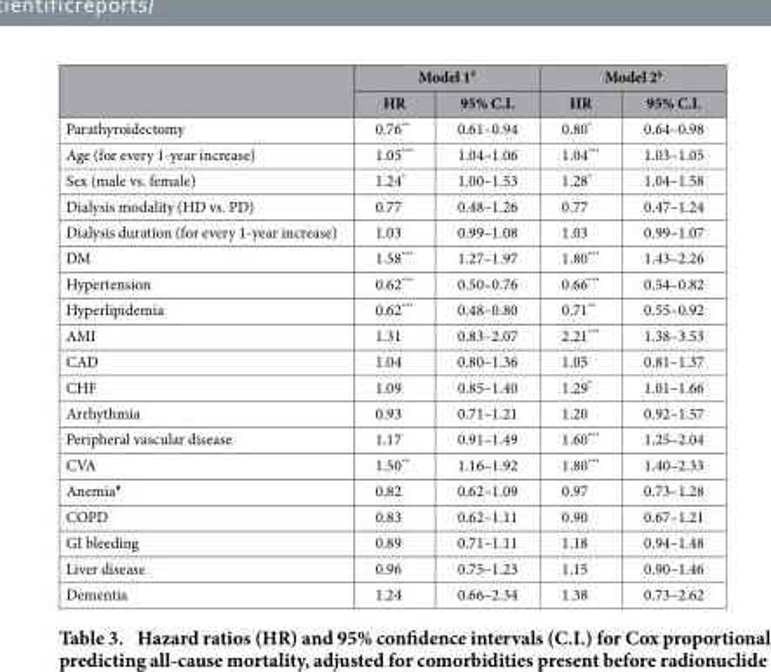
<table><thead><tr><td rowspan="2"></td><td colspan="2">Model 1#</td><td colspan="2">Model 2§</td></tr><tr><td>HR</td><td>95% C.I.</td><td>HR</td><td>95% C.I.</td></tr></thead><tbody><tr><td>Parathyroidectomy</td><td>0.76**</td><td>0.61–0.94</td><td>0.80*</td><td>0.64–0.98</td></tr><tr><td>Age (for every 1-year increase)</td><td>1.05***</td><td>1.04–1.06</td><td>1.04***</td><td>1.03–1.05</td></tr><tr><td>Sex (male vs. female)</td><td>1.24*</td><td>1.00–1.53</td><td>1.28*</td><td>1.04–1.58</td></tr><tr><td>Dialysis modality (HD vs. PD)</td><td>0.77</td><td>0.48–1.26</td><td>0.77</td><td>0.47–1.24</td></tr><tr><td>Dialysis duration (for every 1-year increase)</td><td>1.03</td><td>0.99–1.08</td><td>1.03</td><td>0.99–1.07</td></tr><tr><td>DM</td><td>1.58***</td><td>1.27–1.97</td><td>1.80***</td><td>1.43–2.26</td></tr><tr><td>Hypertension</td><td>0.62***</td><td>0.50–0.76</td><td>0.66***</td><td>0.54–0.82</td></tr><tr><td>Hyperlipidemia</td><td>0.62***</td><td>0.48–0.80</td><td>0.71**</td><td>0.55–0.92</td></tr><tr><td>AMI</td><td>1.31</td><td>0.83–2.07</td><td>2.21***</td><td>1.38–3.53</td></tr><tr><td>CAD</td><td>1.04</td><td>0.80–1.36</td><td>1.05</td><td>0.81–1.37</td></tr><tr><td>CHF</td><td>1.09</td><td>0.85–1.40</td><td>1.29*</td><td>1.01–1.66</td></tr><tr><td>Arrhythmia</td><td>0.93</td><td>0.71–1.21</td><td>1.20</td><td>0.92–1.57</td></tr><tr><td>Peripheral vascular disease</td><td>1.17</td><td>0.91–1.49</td><td>1.60***</td><td>1.25–2.04</td></tr><tr><td>CVA</td><td>1.50**</td><td>1.16–1.92</td><td>1.80***</td><td>1.40–2.33</td></tr><tr><td>Anemia¶</td><td>0.82</td><td>0.62–1.09</td><td>0.97</td><td>0.73–1.28</td></tr><tr><td>COPD</td><td>0.83</td><td>0.62–1.11</td><td>0.90</td><td>0.67–1.21</td></tr><tr><td>GI bleeding</td><td>0.89</td><td>0.71–1.11</td><td>1.18</td><td>0.94–1.48</td></tr><tr><td>Liver disease</td><td>0.96</td><td>0.75–1.23</td><td>1.15</td><td>0.90–1.46</td></tr><tr><td>Dementia</td><td>1.24</td><td>0.66–2.34</td><td>1.38</td><td>0.73–2.62</td></tr></tbody></table>